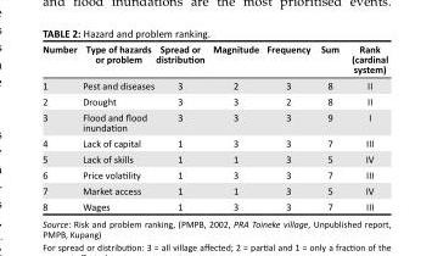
<table><thead><tr><td>Number</td><td>Type of hazards or problem</td><td>Spread or distribution</td><td>Magnitude</td><td>Frequency</td><td>Sum</td><td>Rank (cardinal system)</td></tr></thead><tbody><tr><td>1</td><td>Pest and diseases</td><td>3</td><td>2</td><td>3</td><td>8</td><td>II</td></tr><tr><td>2</td><td>Drought</td><td>3</td><td>3</td><td>2</td><td>8</td><td>II</td></tr><tr><td>3</td><td>Flood and flood inundation</td><td>3</td><td>3</td><td>3</td><td>9</td><td>I</td></tr><tr><td>4</td><td>Lack of capital</td><td>1</td><td>3</td><td>3</td><td>7</td><td>III</td></tr><tr><td>5</td><td>Lack of skills</td><td>1</td><td>1</td><td>3</td><td>5</td><td>IV</td></tr><tr><td>6</td><td>Price volatility</td><td>1</td><td>3</td><td>3</td><td>7</td><td>III</td></tr><tr><td>7</td><td>Market access</td><td>1</td><td>1</td><td>3</td><td>5</td><td>IV</td></tr><tr><td>8</td><td>Wages</td><td>1</td><td>3</td><td>3</td><td>7</td><td>III</td></tr></tbody></table>